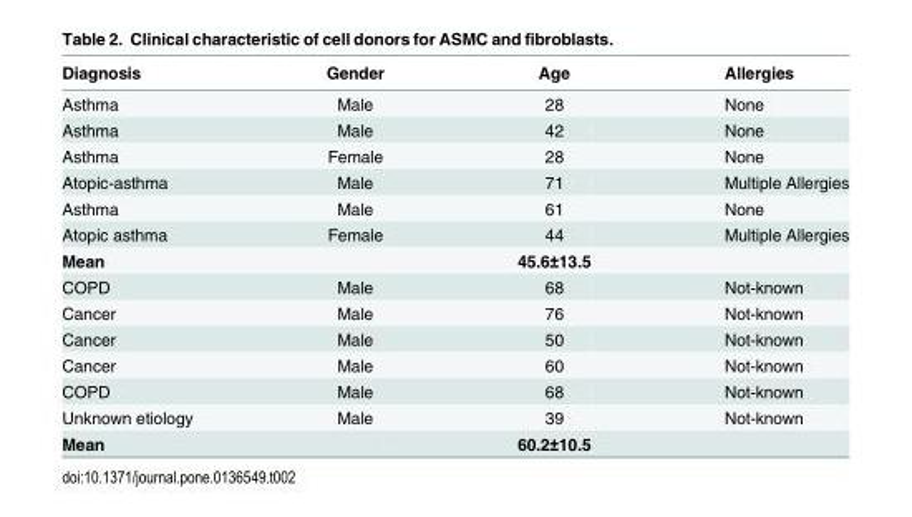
<table><thead><tr><td>Diagnosis</td><td>Gender</td><td>Age</td><td>Allergies</td></tr></thead><tbody><tr><td>Asthma</td><td>Male</td><td>28</td><td>None</td></tr><tr><td>Asthma</td><td>Male</td><td>42</td><td>None</td></tr><tr><td>Asthma</td><td>Female</td><td>28</td><td>None</td></tr><tr><td>Atopic-asthma</td><td>Male</td><td>71</td><td>Multiple Allergies</td></tr><tr><td>Asthma</td><td>Male</td><td>61</td><td>None</td></tr><tr><td>Atopic asthma</td><td>Female</td><td>44</td><td>Multiple Allergies</td></tr><tr><td>Mean</td><td></td><td>45.6±13.5</td><td></td></tr><tr><td>COPD</td><td>Male</td><td>68</td><td>Not-known</td></tr><tr><td>Cancer</td><td>Male</td><td>76</td><td>Not-known</td></tr><tr><td>Cancer</td><td>Male</td><td>50</td><td>Not-known</td></tr><tr><td>Cancer</td><td>Male</td><td>60</td><td>Not-known</td></tr><tr><td>COPD</td><td>Male</td><td>68</td><td>Not-known</td></tr><tr><td>Unknown etiology</td><td>Male</td><td>39</td><td>Not-known</td></tr><tr><td>Mean</td><td></td><td>60.2±10.5</td><td></td></tr></tbody></table>